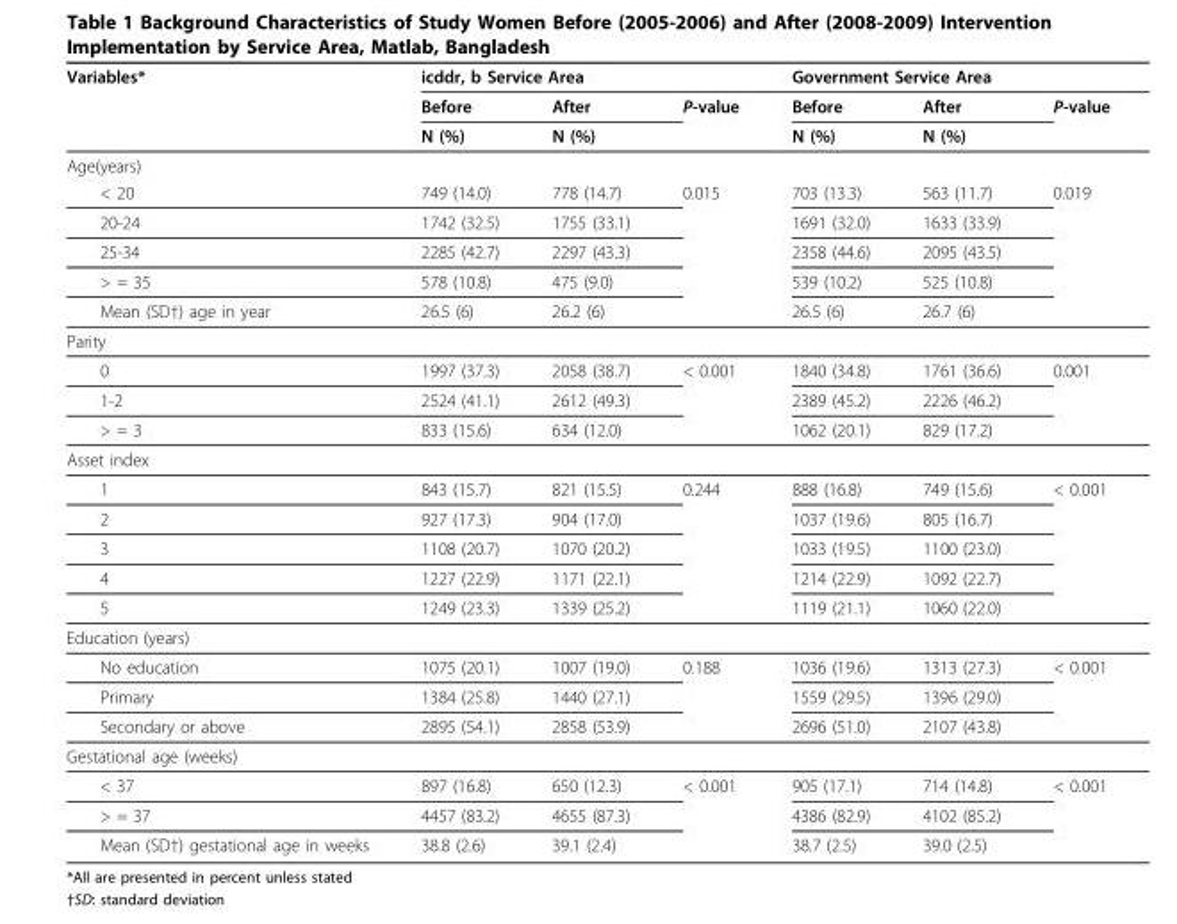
<table><thead><tr><td rowspan="3">Variables*</td><td colspan="3">icddr, b Service Area</td><td colspan="3">Government Service Area</td></tr><tr><td rowspan="2">Before N (%)</td><td rowspan="2">After N (%)</td><td rowspan="2">P-value</td><td rowspan="2">Before N (%)</td><td rowspan="2">After N (%)</td><td rowspan="2">P-value</td></tr><tr></tr></thead><tbody><tr><td colspan="7">Age(years)</td></tr><tr><td>&lt; 20</td><td>749 (14.0)</td><td>778 (14.7)</td><td>0.015</td><td>703 (13.3)</td><td>563 (11.7)</td><td>0.019</td></tr><tr><td>20-24</td><td>1742 (32.5)</td><td>1755 (33.1)</td><td></td><td>1691 (32.0)</td><td>1633 (33.9)</td><td></td></tr><tr><td>25-34</td><td>2285 (42.7)</td><td>2297 (43.3)</td><td></td><td>2358 (44.6)</td><td>2095 (43.5)</td><td></td></tr><tr><td>&gt; = 35</td><td>578 (10.8)</td><td>475 (9.0)</td><td></td><td>539 (10.2)</td><td>525 (10.8)</td><td></td></tr><tr><td>Mean (SD†) age in year</td><td>26.5 (6)</td><td>26.2 (6)</td><td></td><td>26.5 (6)</td><td>26.7 (6)</td><td></td></tr><tr><td colspan="7">Parity</td></tr><tr><td>0</td><td>1997 (37.3)</td><td>2058 (38.7)</td><td>&lt; 0.001</td><td>1840 (34.8)</td><td>1761 (36.6)</td><td>0.001</td></tr><tr><td>1-2</td><td>2524 (41.1)</td><td>2612 (49.3)</td><td></td><td>2389 (45.2)</td><td>2226 (46.2)</td><td></td></tr><tr><td>&gt; = 3</td><td>833 (15.6)</td><td>634 (12.0)</td><td></td><td>1062 (20.1)</td><td>829 (17.2)</td><td></td></tr><tr><td colspan="7">Asset index</td></tr><tr><td>1</td><td>843 (15.7)</td><td>821 (15.5)</td><td>0.244</td><td>888 (16.8)</td><td>749 (15.6)</td><td>&lt; 0.001</td></tr><tr><td>2</td><td>927 (17.3)</td><td>904 (17.0)</td><td></td><td>1037 (19.6)</td><td>805 (16.7)</td><td></td></tr><tr><td>3</td><td>1108 (20.7)</td><td>1070 (20.2)</td><td></td><td>1033 (19.5)</td><td>1100 (23.0)</td><td></td></tr><tr><td>4</td><td>1227 (22.9)</td><td>1171 (22.1)</td><td></td><td>1214 (22.9)</td><td>1092 (22.7)</td><td></td></tr><tr><td>5</td><td>1249 (23.3)</td><td>1339 (25.2)</td><td></td><td>1119 (21.1)</td><td>1060 (22.0)</td><td></td></tr><tr><td colspan="7">Education (years)</td></tr><tr><td>No education</td><td>1075 (20.1)</td><td>1007 (19.0)</td><td>0.188</td><td>1036 (19.6)</td><td>1313 (27.3)</td><td>&lt; 0.001</td></tr><tr><td>Primary</td><td>1384 (25.8)</td><td>1440 (27.1)</td><td></td><td>1559 (29.5)</td><td>1396 (29.0)</td><td></td></tr><tr><td>Secondary or above</td><td>2895 (54.1)</td><td>2858 (53.9)</td><td></td><td>2696 (51.0)</td><td>2107 (43.8)</td><td></td></tr><tr><td colspan="7">Gestational age (weeks)</td></tr><tr><td>&lt; 37</td><td>897 (16.8)</td><td>650 (12.3)</td><td>&lt; 0.001</td><td>905 (17.1)</td><td>714 (14.8)</td><td>&lt; 0.001</td></tr><tr><td>&gt; = 37</td><td>4457 (83.2)</td><td>4655 (87.3)</td><td></td><td>4386 (82.9)</td><td>4102 (85.2)</td><td></td></tr><tr><td>Mean (SD†) gestational age in weeks</td><td>38.8 (2.6)</td><td>39.1 (2.4)</td><td></td><td>38.7 (2.5)</td><td>39.0 (2.5)</td><td></td></tr></tbody></table>